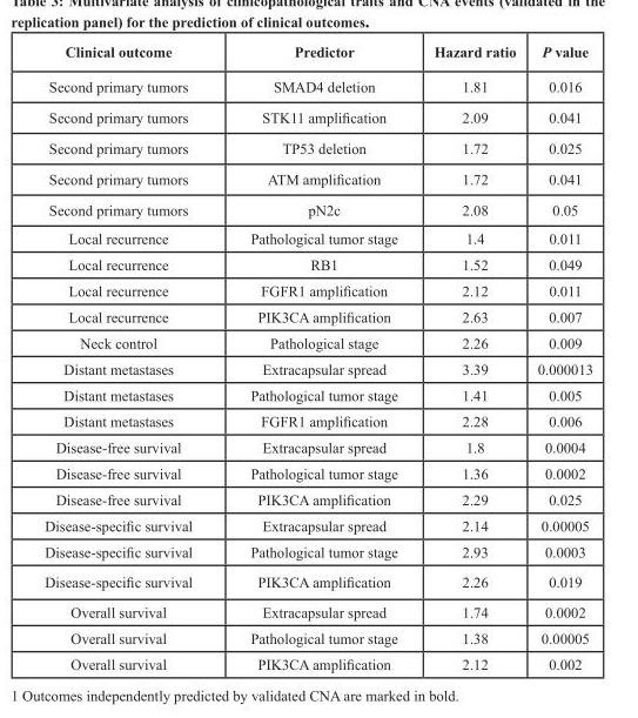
<table><thead><tr><td>Clinical outcome</td><td>Predictor</td><td>Hazard ratio</td><td>P value</td></tr></thead><tbody><tr><td>Second primary tumors</td><td>SMAD4 deletion</td><td>1.81</td><td>0.016</td></tr><tr><td>Second primary tumors</td><td>STK11 amplification</td><td>2.09</td><td>0.041</td></tr><tr><td>Second primary tumors</td><td>TP53 deletion</td><td>1.72</td><td>0.025</td></tr><tr><td>Second primary tumors</td><td>ATM amplification</td><td>1.72</td><td>0.041</td></tr><tr><td>Second primary tumors</td><td>pN2c</td><td>2.08</td><td>0.05</td></tr><tr><td>Local recurrence</td><td>Pathological tumor stage</td><td>1.4</td><td>0.011</td></tr><tr><td>Local recurrence</td><td>RB1</td><td>1.52</td><td>0.049</td></tr><tr><td>Local recurrence</td><td>FGFR1 amplification</td><td>2.12</td><td>0.011</td></tr><tr><td>Local recurrence</td><td>PIK3CA amplification</td><td>2.63</td><td>0.007</td></tr><tr><td>Neck control</td><td>Pathological stage</td><td>2.26</td><td>0.009</td></tr><tr><td>Distant metastases</td><td>Extracapsular spread</td><td>3.39</td><td>0.000013</td></tr><tr><td>Distant metastases</td><td>Pathological tumor stage</td><td>1.41</td><td>0.005</td></tr><tr><td>Distant metastases</td><td>FGFR1 amplification</td><td>2.28</td><td>0.006</td></tr><tr><td>Disease-free survival</td><td>Extracapsular spread</td><td>1.8</td><td>0.0004</td></tr><tr><td>Disease-free survival</td><td>Pathological tumor stage</td><td>1.36</td><td>0.0002</td></tr><tr><td>Disease-free survival</td><td>PIK3CA amplification</td><td>2.29</td><td>0.025</td></tr><tr><td>Disease-specific survival</td><td>Extracapsular spread</td><td>2.14</td><td>0.00005</td></tr><tr><td>Disease-specific survival</td><td>Pathological tumor stage</td><td>2.93</td><td>0.0003</td></tr><tr><td>Disease-specific survival</td><td>PIK3CA amplification</td><td>2.26</td><td>0.019</td></tr><tr><td>Overall survival</td><td>Extracapsular spread</td><td>1.74</td><td>0.0002</td></tr><tr><td>Overall survival</td><td>Pathological tumor stage</td><td>1.38</td><td>0.00005</td></tr><tr><td>Overall survival</td><td>PIK3CA amplification</td><td>2.12</td><td>0.002</td></tr></tbody></table>